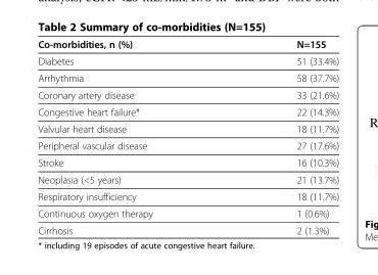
<table><thead><tr><td>Co-morbidities, n (%)</td><td>N=155</td></tr></thead><tbody><tr><td>Diabetes</td><td>51 (33.4%)</td></tr><tr><td>Arrhythmia</td><td>58 (37.7%)</td></tr><tr><td>Coronary artery disease</td><td>33 (21.6%)</td></tr><tr><td>Congestive heart failure*</td><td>22 (14.3%)</td></tr><tr><td>Valvular heart disease</td><td>18 (11.7%)</td></tr><tr><td>Peripheral vascular disease</td><td>27 (17.6%)</td></tr><tr><td>Stroke</td><td>16 (10.3%)</td></tr><tr><td>Neoplasia (&lt;5 years)</td><td>21 (13.7%)</td></tr><tr><td>Respiratory insufficiency</td><td>18 (11.7%)</td></tr><tr><td>Continuous oxygen therapy</td><td>1 (0.6%)</td></tr><tr><td>Cirrhosis</td><td>2 (1.3%)</td></tr></tbody></table>